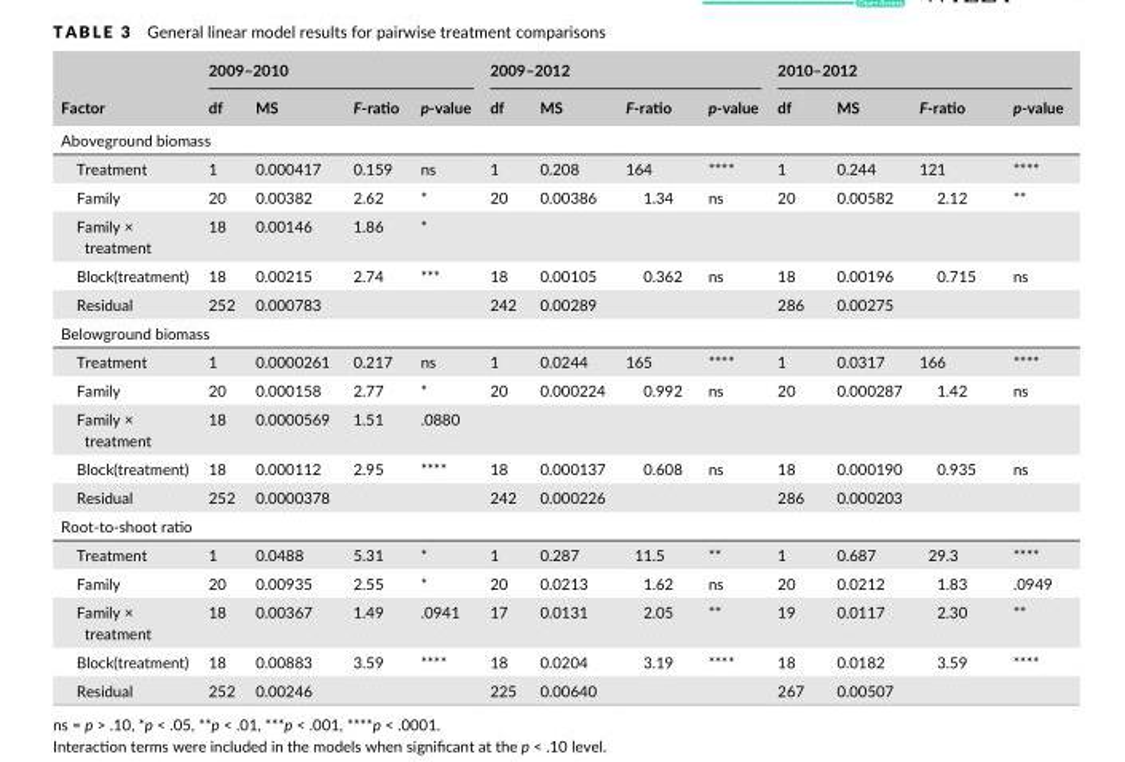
<table><thead><tr><td rowspan="2">Factor</td><td colspan="4">2009–2010</td><td colspan="4">2009–2012</td><td colspan="4">2010–2012</td></tr><tr><td>df</td><td>MS</td><td>F- ratio</td><td>p- value</td><td>df</td><td>MS</td><td>F- ratio</td><td>p- value</td><td>df</td><td>MS</td><td>F- ratio</td><td>p- value</td></tr></thead><tbody><tr><td colspan="13">Aboveground biomass</td></tr><tr><td>Treatment</td><td>1</td><td>0.000417</td><td>0.159</td><td>ns</td><td>1</td><td>0.208</td><td>164</td><td>****</td><td>1</td><td>0.244</td><td>121</td><td>****</td></tr><tr><td>Family</td><td>20</td><td>0.00382</td><td>2.62</td><td>*</td><td>20</td><td>0.00386</td><td>1.34</td><td>ns</td><td>20</td><td>0.00582</td><td>2.12</td><td>**</td></tr><tr><td>Family × treatment</td><td>18</td><td>0.00146</td><td>1.86</td><td>*</td><td></td><td></td><td></td><td></td><td></td><td></td><td></td><td></td></tr><tr><td>Block(treatment)</td><td>18</td><td>0.00215</td><td>2.74</td><td>***</td><td>18</td><td>0.00105</td><td>0.362</td><td>ns</td><td>18</td><td>0.00196</td><td>0.715</td><td>ns</td></tr><tr><td>Residual</td><td>252</td><td>0.000783</td><td></td><td></td><td>242</td><td>0.00289</td><td></td><td></td><td>286</td><td>0.00275</td><td></td><td></td></tr><tr><td colspan="13">Belowground biomass</td></tr><tr><td>Treatment</td><td>1</td><td>0.0000261</td><td>0.217</td><td>ns</td><td>1</td><td>0.0244</td><td>165</td><td>****</td><td>1</td><td>0.0317</td><td>166</td><td>****</td></tr><tr><td>Family</td><td>20</td><td>0.000158</td><td>2.77</td><td>*</td><td>20</td><td>0.000224</td><td>0.992</td><td>ns</td><td>20</td><td>0.000287</td><td>1.42</td><td>ns</td></tr><tr><td>Family × treatment</td><td>18</td><td>0.0000569</td><td>1.51</td><td>.0880</td><td></td><td></td><td></td><td></td><td></td><td></td><td></td><td></td></tr><tr><td>Block(treatment)</td><td>18</td><td>0.000112</td><td>2.95</td><td>****</td><td>18</td><td>0.000137</td><td>0.608</td><td>ns</td><td>18</td><td>0.000190</td><td>0.935</td><td>ns</td></tr><tr><td>Residual</td><td>252</td><td>0.0000378</td><td></td><td></td><td>242</td><td>0.000226</td><td></td><td></td><td>286</td><td>0.000203</td><td></td><td></td></tr><tr><td colspan="13">Root- to- shoot ratio</td></tr><tr><td>Treatment</td><td>1</td><td>0.0488</td><td>5.31</td><td>*</td><td>1</td><td>0.287</td><td>11.5</td><td>**</td><td>1</td><td>0.687</td><td>29.3</td><td>****</td></tr><tr><td>Family</td><td>20</td><td>0.00935</td><td>2.55</td><td>*</td><td>20</td><td>0.0213</td><td>1.62</td><td>ns</td><td>20</td><td>0.0212</td><td>1.83</td><td>.0949</td></tr><tr><td>Family × treatment</td><td>18</td><td>0.00367</td><td>1.49</td><td>.0941</td><td>17</td><td>0.0131</td><td>2.05</td><td>**</td><td>19</td><td>0.0117</td><td>2.30</td><td>**</td></tr><tr><td>Block(treatment)</td><td>18</td><td>0.00883</td><td>3.59</td><td>****</td><td>18</td><td>0.0204</td><td>3.19</td><td>****</td><td>18</td><td>0.0182</td><td>3.59</td><td>****</td></tr><tr><td>Residual</td><td>252</td><td>0.00246</td><td></td><td></td><td>225</td><td>0.00640</td><td></td><td></td><td>267</td><td>0.00507</td><td></td><td></td></tr></tbody></table>